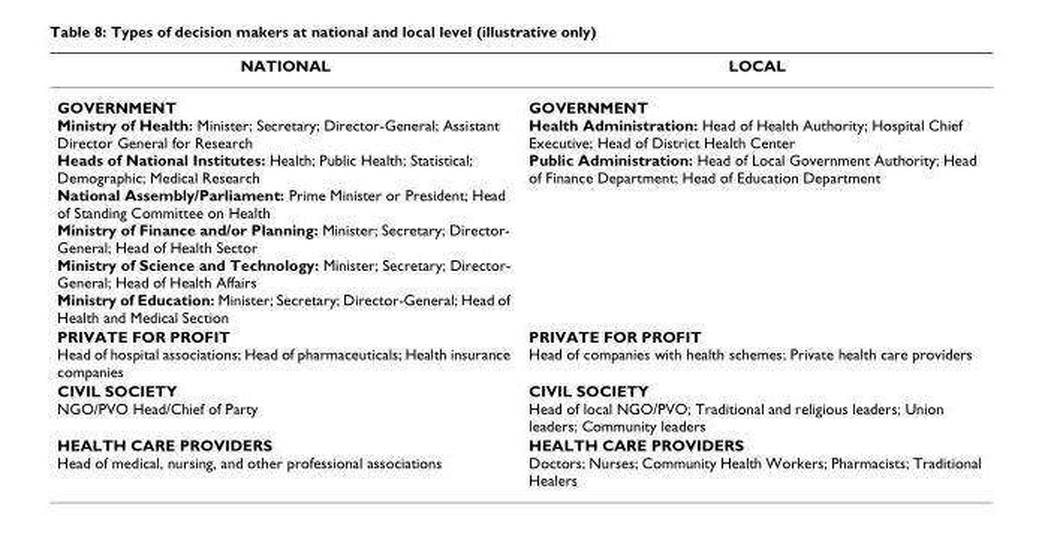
<table><thead><tr><td>NATIONAL</td><td>LOCAL</td></tr></thead><tbody><tr><td>GOVERNMENT Ministry of Health: Minister; Secretary; Director-General; Assistant Director General for Research Heads of National Institutes: Health; Public Health; Statistical; Demographic; Medical Research National Assembly/Parliament: Prime Minister or President; Head of Standing Committee on Health Ministry of Finance and/or Planning: Minister; Secretary; Director- General; Head of Health Sector Ministry of Science and Technology: Minister; Secretary; Director- General; Head of Health Affairs Ministry of Education: Minister; Secretary; Director-General; Head of Health and Medical Section</td><td>GOVERNMENT Health Administration: Head of Health Authority; Hospital Chief Executive; Head of District Health Center Public Administration: Head of Local Government Authority; Head of Finance Department; Head of Education Department</td></tr><tr><td>PRIVATE FOR PROFIT Head of hospital associations; Head of pharmaceuticals; Health insurance companies</td><td>PRIVATE FOR PROFIT Head of companies with health schemes; Private health care providers</td></tr><tr><td>CIVIL SOCIETY NGO/PVO Head/Chief of Party</td><td>CIVIL SOCIETY Head of local NGO/PVO; Traditional and religious leaders; Union leaders; Community leaders</td></tr><tr><td>HEALTH CARE PROVIDERS Head of medical, nursing, and other professional associations</td><td>HEALTH CARE PROVIDERS Doctors; Nurses; Community Health Workers; Pharmacists; Traditional Healers</td></tr></tbody></table>